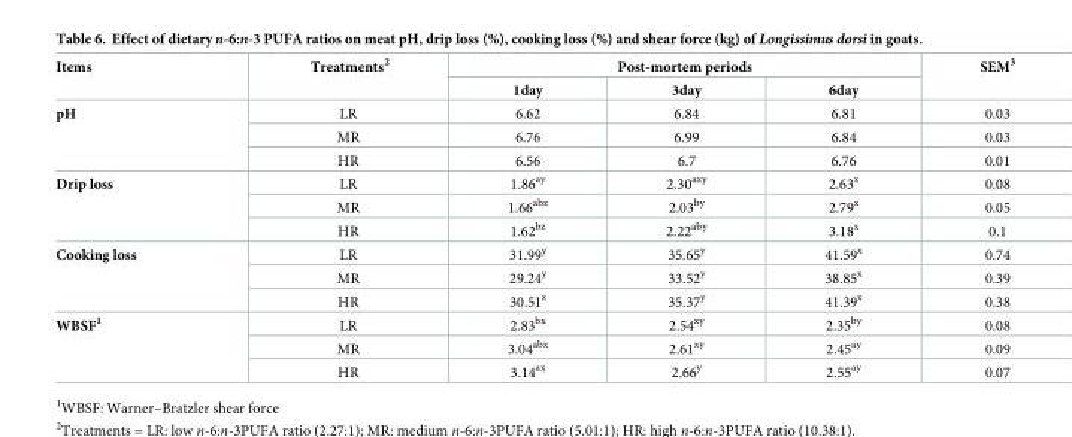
<table><thead><tr><td rowspan="2">Items</td><td rowspan="2">Treatments<sup>2</sup></td><td colspan="3">Post-mortem periods</td><td rowspan="2">SEM<sup>3</sup></td></tr><tr><td>1day</td><td>3day</td><td>6day</td></tr></thead><tbody><tr><td rowspan="3">pH</td><td>LR</td><td>6.62</td><td>6.84</td><td>6.81</td><td>0.03</td></tr><tr><td>MR</td><td>6.76</td><td>6.99</td><td>6.84</td><td>0.03</td></tr><tr><td>HR</td><td>6.56</td><td>6.7</td><td>6.76</td><td>0.01</td></tr><tr><td rowspan="3">Drip loss</td><td>LR</td><td>1.86<sup>ay</sup></td><td>2.30<sup>axy</sup></td><td>2.63<sup>x</sup></td><td>0.08</td></tr><tr><td>MR</td><td>1.66<sup>abz</sup></td><td>2.03<sup>by</sup></td><td>2.79<sup>x</sup></td><td>0.05</td></tr><tr><td>HR</td><td>1.62<sup>bz</sup></td><td>2.22<sup>aby</sup></td><td>3.18<sup>x</sup></td><td>0.1</td></tr><tr><td rowspan="3">Cooking loss</td><td>LR</td><td>31.99<sup>y</sup></td><td>35.65<sup>y</sup></td><td>41.59<sup>x</sup></td><td>0.74</td></tr><tr><td>MR</td><td>29.24<sup>y</sup></td><td>33.52<sup>y</sup></td><td>38.85<sup>x</sup></td><td>0.39</td></tr><tr><td>HR</td><td>30.51<sup>z</sup></td><td>35.37<sup>y</sup></td><td>41.39<sup>x</sup></td><td>0.38</td></tr><tr><td rowspan="3">WBSF<sup>1</sup></td><td>LR</td><td>2.83<sup>bx</sup></td><td>2.54<sup>xy</sup></td><td>2.35<sup>by</sup></td><td>0.08</td></tr><tr><td>MR</td><td>3.04<sup>abx</sup></td><td>2.61<sup>xy</sup></td><td>2.45<sup>ay</sup></td><td>0.09</td></tr><tr><td>HR</td><td>3.14<sup>ax</sup></td><td>2.66<sup>y</sup></td><td>2.55<sup>ay</sup></td><td>0.07</td></tr></tbody></table>